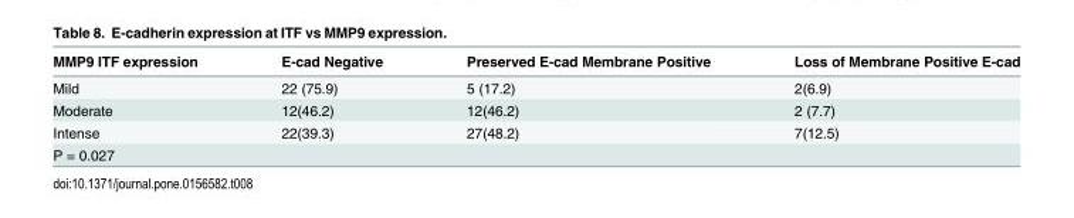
<table><thead><tr><td>MMP9 ITF expression</td><td>E-cad Negative</td><td>Preserved E-cad Membrane Positive</td><td>Loss of Membrane Positive E-cad</td></tr></thead><tbody><tr><td>Mild</td><td>22 (75.9)</td><td>5 (17.2)</td><td>2(6.9)</td></tr><tr><td>Moderate</td><td>12(46.2)</td><td>12(46.2)</td><td>2 (7.7)</td></tr><tr><td>Intense</td><td>22(39.3)</td><td>27(48.2)</td><td>7(12.5)</td></tr><tr><td colspan="4">P = 0.027</td></tr></tbody></table>